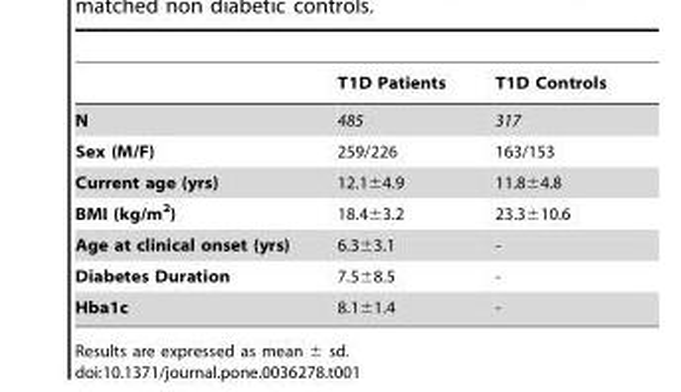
<table><thead><tr><td></td><td>T1D Patients</td><td>T1D Controls</td></tr></thead><tbody><tr><td>N</td><td>485</td><td>317</td></tr><tr><td>Sex (M/F)</td><td>259/226</td><td>163/153</td></tr><tr><td>Current age (yrs)</td><td>12.1±4.9</td><td>11.8±4.8</td></tr><tr><td>BMI (kg/m<sup>2</sup>)</td><td>18.4±3.2</td><td>23.3±10.6</td></tr><tr><td>Age at clinical onset (yrs)</td><td>6.3±3.1</td><td>-</td></tr><tr><td>Diabetes Duration</td><td>7.5±8.5</td><td>-</td></tr><tr><td>Hba1c</td><td>8.1±1.4</td><td>-</td></tr></tbody></table>